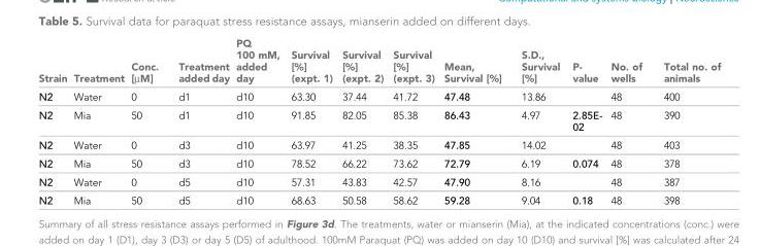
<table><thead><tr><td>Strain</td><td>Treatment</td><td>Conc. [µM]</td><td>Treatment added day</td><td>PQ 100 mM, added day</td><td>Survival [%] (expt. 1)</td><td>Survival [%] (expt. 2)</td><td>Survival [%] (expt. 3)</td><td>Mean, Survival [%]</td><td>S.D., Survival [%]</td><td>P- value</td><td>No. of wells</td><td>Total no. of animals</td></tr></thead><tbody><tr><td>N2</td><td>Water</td><td>0</td><td>d1</td><td>d10</td><td>63.30</td><td>37.44</td><td>41.72</td><td>47.48</td><td>13.86</td><td></td><td>48</td><td>400</td></tr><tr><td>N2</td><td>Mia</td><td>50</td><td>d1</td><td>d10</td><td>91.85</td><td>82.05</td><td>85.38</td><td>86.43</td><td>4.97</td><td>2.85E- 02</td><td>48</td><td>390</td></tr><tr><td>N2</td><td>Water</td><td>0</td><td>d3</td><td>d10</td><td>63.97</td><td>41.25</td><td>38.35</td><td>47.85</td><td>14.02</td><td></td><td>48</td><td>403</td></tr><tr><td>N2</td><td>Mia</td><td>50</td><td>d3</td><td>d10</td><td>78.52</td><td>66.22</td><td>73.62</td><td>72.79</td><td>6.19</td><td>0.074</td><td>48</td><td>378</td></tr><tr><td>N2</td><td>Water</td><td>0</td><td>d5</td><td>d10</td><td>57.31</td><td>43.83</td><td>42.57</td><td>47.90</td><td>8.16</td><td></td><td>48</td><td>387</td></tr><tr><td>N2</td><td>Mia</td><td>50</td><td>d5</td><td>d10</td><td>68.63</td><td>50.58</td><td>58.62</td><td>59.28</td><td>9.04</td><td>0.18</td><td>48</td><td>398</td></tr></tbody></table>